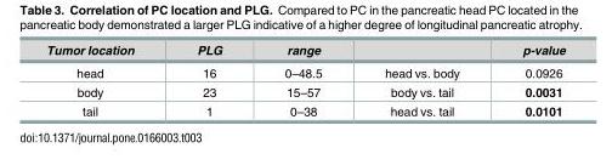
<table><thead><tr><td>Tumor location</td><td>PLG</td><td>range</td><td></td><td>p-value</td></tr></thead><tbody><tr><td>head</td><td>16</td><td>0–48.5</td><td>head vs. body</td><td>0.0926</td></tr><tr><td>body</td><td>23</td><td>15–57</td><td>body vs. tail</td><td>0.0031</td></tr><tr><td>tail</td><td>1</td><td>0–38</td><td>head vs. tail</td><td>0.0101</td></tr></tbody></table>